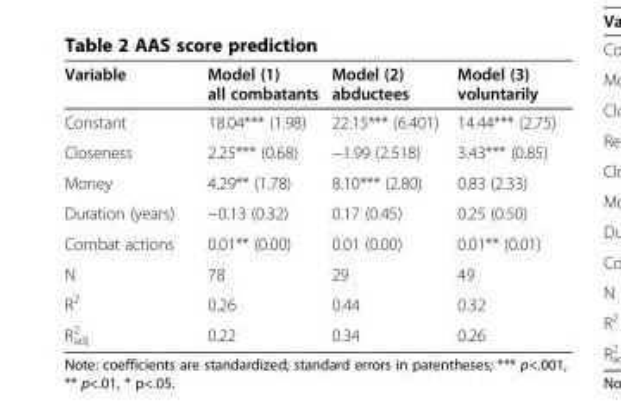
<table><thead><tr><td>Variable</td><td>Model (1) all combatants</td><td>Model (2) abductees</td><td>Model (3) voluntarily</td></tr></thead><tbody><tr><td>Constant</td><td>18.04*** (1.98)</td><td>22.15*** (6.401)</td><td>14.44*** (2.75)</td></tr><tr><td>Closeness</td><td>2.25*** (0.68)</td><td>−1.99 (2.518)</td><td>3.43*** (0.85)</td></tr><tr><td>Money</td><td>4.29** (1.78)</td><td>8.10*** (2.80)</td><td>0.83 (2.33)</td></tr><tr><td>Duration (years)</td><td>−0.13 (0.32)</td><td>0.17 (0.45)</td><td>0.25 (0.50)</td></tr><tr><td>Combat actions</td><td>0.01** (0.00)</td><td>0.01 (0.00)</td><td>0.01** (0.01)</td></tr><tr><td>N</td><td>78</td><td>29</td><td>49</td></tr><tr><td>R<sup>2</sup></td><td>0.26</td><td>0.44</td><td>0.32</td></tr><tr><td>R<sub>adj</sub> <sup>2</sup></td><td>0.22</td><td>0.34</td><td>0.26</td></tr></tbody></table>